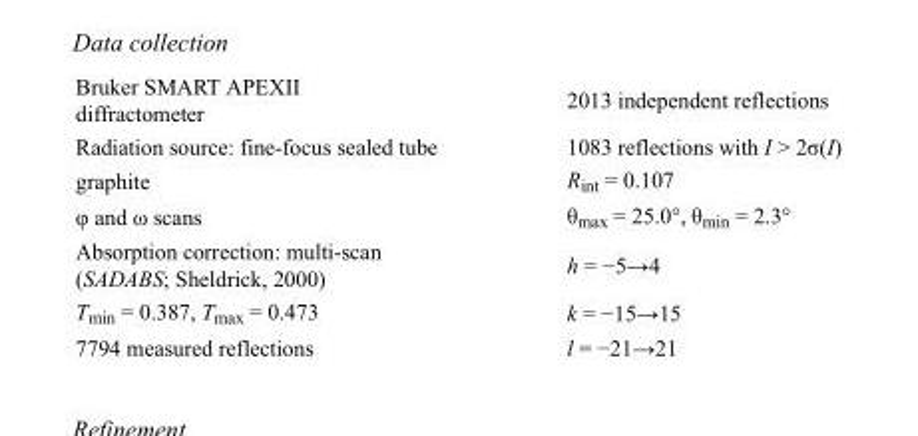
<table><tbody><tr><td>Bruker SMART APEXII diffractometer</td><td>2013 independent reflections</td></tr><tr><td>Radiation source: fine-focus sealed tube</td><td>1083 reflections with I &gt; 2σ(I)</td></tr><tr><td>graphite</td><td>R<sub>int</sub> = 0.107</td></tr><tr><td>φ and ω scans</td><td>θ<sub>max</sub> = 25.0°, θ<sub>min</sub> = 2.3°</td></tr><tr><td>Absorption correction: multi-scan (SADABS; Sheldrick, 2000)</td><td>h = −5→4</td></tr><tr><td>T<sub>min</sub> = 0.387, T<sub>max</sub> = 0.473</td><td>k = −15→15</td></tr><tr><td>7794 measured reflections</td><td>l = −21→21</td></tr></tbody></table>